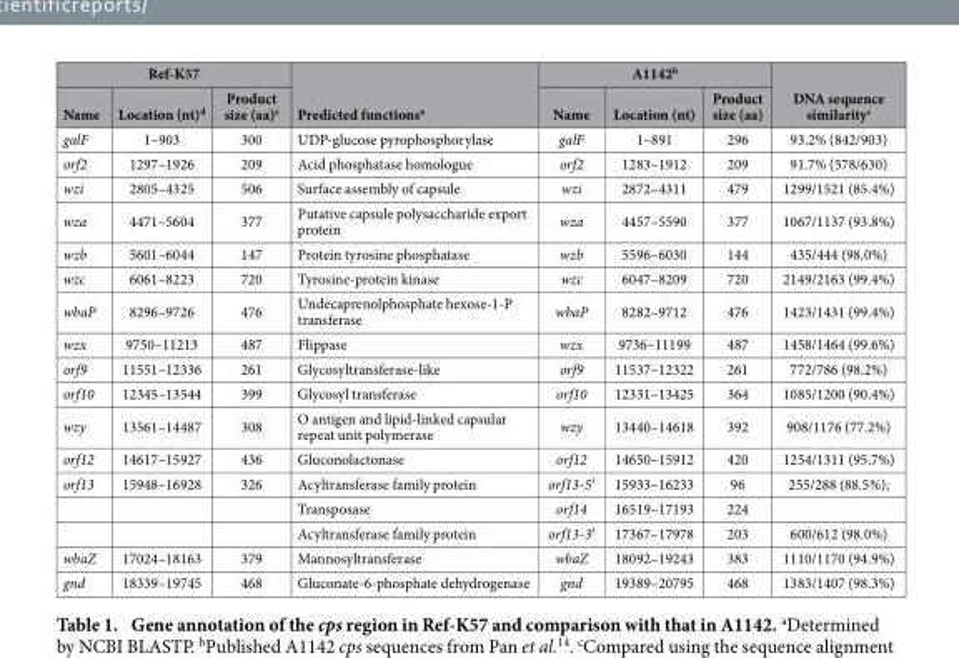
<table><thead><tr><td colspan="3">Ref-K57</td><td rowspan="2">Predicted functions<sup>a</sup></td><td colspan="3">A1142<sup>b</sup></td><td rowspan="2">DNA sequence similarity<sup>c</sup></td></tr><tr><td>Name</td><td>Location (nt)<sup>d</sup></td><td>Product size (aa)<sup>e</sup></td><td>Name</td><td>Location (nt)</td><td>Product size (aa)</td></tr></thead><tbody><tr><td>galF</td><td>1–903</td><td>300</td><td>UDP-glucose pyrophosphorylase</td><td>galF</td><td>1–891</td><td>296</td><td>93.2% (842/903)</td></tr><tr><td>orf2</td><td>1297–1926</td><td>209</td><td>Acid phosphatase homologue</td><td>orf2</td><td>1283–1912</td><td>209</td><td>91.7% (578/630)</td></tr><tr><td>wzi</td><td>2805–4325</td><td>506</td><td>Surface assembly of capsule</td><td>wzi</td><td>2872–4311</td><td>479</td><td>1299/1521 (85.4%)</td></tr><tr><td>wza</td><td>4471–5604</td><td>377</td><td>Putative capsule polysaccharide export protein</td><td>wza</td><td>4457–5590</td><td>377</td><td>1067/1137 (93.8%)</td></tr><tr><td>wzb</td><td>5601–6044</td><td>147</td><td>Protein tyrosine phosphatase</td><td>wzb</td><td>5596–6030</td><td>144</td><td>435/444 (98.0%)</td></tr><tr><td>wzc</td><td>6061–8223</td><td>720</td><td>Tyrosine-protein kinase</td><td>wzc</td><td>6047–8209</td><td>720</td><td>2149/2163 (99.4%)</td></tr><tr><td>wbaP</td><td>8296–9726</td><td>476</td><td>Undecaprenolphosphate hexose-1-P transferase</td><td>wbaP</td><td>8282–9712</td><td>476</td><td>1423/1431 (99.4%)</td></tr><tr><td>wzx</td><td>9750–11213</td><td>487</td><td>Flippase</td><td>wzx</td><td>9736–11199</td><td>487</td><td>1458/1464 (99.6%)</td></tr><tr><td>orf9</td><td>11551–12336</td><td>261</td><td>Glycosyltransferase-like</td><td>orf9</td><td>11537–12322</td><td>261</td><td>772/786 (98.2%)</td></tr><tr><td>orf10</td><td>12345–13544</td><td>399</td><td>Glycosyl transferase</td><td>orf10</td><td>12331–13425</td><td>364</td><td>1085/1200 (90.4%)</td></tr><tr><td>wzy</td><td>13561–14487</td><td>308</td><td>O antigen and lipid-linked capsular repeat unit polymerase</td><td>wzy</td><td>13440–14618</td><td>392</td><td>908/1176 (77.2%)</td></tr><tr><td>orf12</td><td>14617–15927</td><td>436</td><td>Gluconolactonase</td><td>orf12</td><td>14650–15912</td><td>420</td><td>1254/1311 (95.7%)</td></tr><tr><td rowspan="3">orf13</td><td>15948–16928</td><td>326</td><td>Acyltransferase family protein</td><td>orf13-5′</td><td>15933–16233</td><td>96</td><td>255/288 (88.5%);</td></tr><tr><td></td><td></td><td>Transposase</td><td>orf14</td><td>16519–17193</td><td>224</td><td></td></tr><tr><td></td><td></td><td>Acyltransferase family protein</td><td>orf13-3′</td><td>17367–17978</td><td>203</td><td>600/612 (98.0%)</td></tr><tr><td>wbaZ</td><td>17024–18163</td><td>379</td><td>Mannosyltransferase</td><td>wbaZ</td><td>18092–19243</td><td>383</td><td>1110/1170 (94.9%)</td></tr><tr><td>gnd</td><td>18339–19745</td><td>468</td><td>Gluconate-6-phosphate dehydrogenase</td><td>gnd</td><td>19389–20795</td><td>468</td><td>1383/1407 (98.3%)</td></tr></tbody></table>